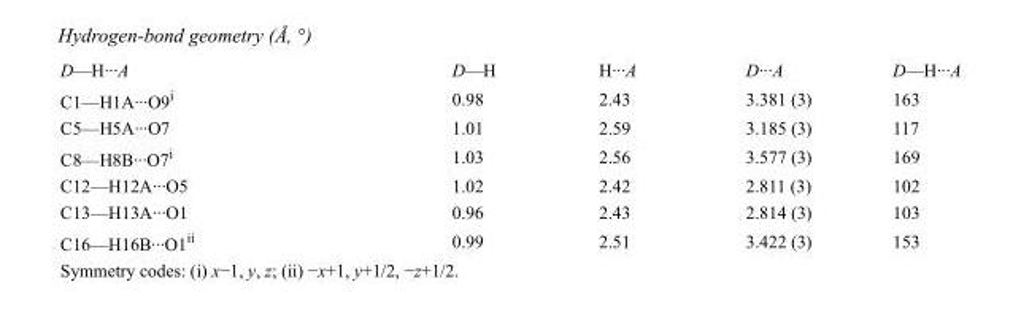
<table><tbody><tr><td>D—H···A</td><td>D—H</td><td>H···A</td><td>D···A</td><td>D—H···A</td></tr><tr><td>C1—H1A···O9<sup>i</sup></td><td>0.98</td><td>2.43</td><td>3.381 (3)</td><td>163</td></tr><tr><td>C5—H5A···O7</td><td>1.01</td><td>2.59</td><td>3.185 (3)</td><td>117</td></tr><tr><td>C8—H8B···O7<sup>i</sup></td><td>1.03</td><td>2.56</td><td>3.577 (3)</td><td>169</td></tr><tr><td>C12—H12A···O5</td><td>1.02</td><td>2.42</td><td>2.811 (3)</td><td>102</td></tr><tr><td>C13—H13A···O1</td><td>0.96</td><td>2.43</td><td>2.814 (3)</td><td>103</td></tr><tr><td>C16—H16B···O1<sup>ii</sup></td><td>0.99</td><td>2.51</td><td>3.422 (3)</td><td>153</td></tr></tbody></table>